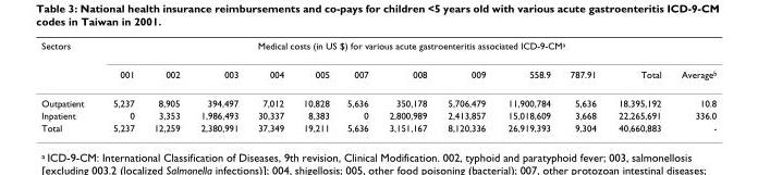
<table><thead><tr><td rowspan="2">Sectors</td><td colspan="12">Medical costs (in US $) for various acute gastroenteritis associated ICD-9-CM<sup>a</sup></td></tr><tr><td>001</td><td>002</td><td>003</td><td>004</td><td>005</td><td>007</td><td>008</td><td>009</td><td>558.9</td><td>787.91</td><td>Total</td><td>Average<sup>b</sup></td></tr></thead><tbody><tr><td>Outpatient</td><td>5,237</td><td>8,905</td><td>394,497</td><td>7,012</td><td>10,828</td><td>5,636</td><td>350,178</td><td>5,706,479</td><td>11,900,784</td><td>5,636</td><td>18,395,192</td><td>10.8</td></tr><tr><td>Inpatient</td><td>0</td><td>3,353</td><td>1,986,493</td><td>30,337</td><td>8,383</td><td>0</td><td>2,800,989</td><td>2,413,857</td><td>15,018,609</td><td>3,668</td><td>22,265,691</td><td>336.0</td></tr><tr><td>Total</td><td>5,237</td><td>12,259</td><td>2,380,991</td><td>37,349</td><td>19,211</td><td>5,636</td><td>3,151,167</td><td>8,120,336</td><td>26,919,393</td><td>9,304</td><td>40,660,883</td><td>-</td></tr></tbody></table>